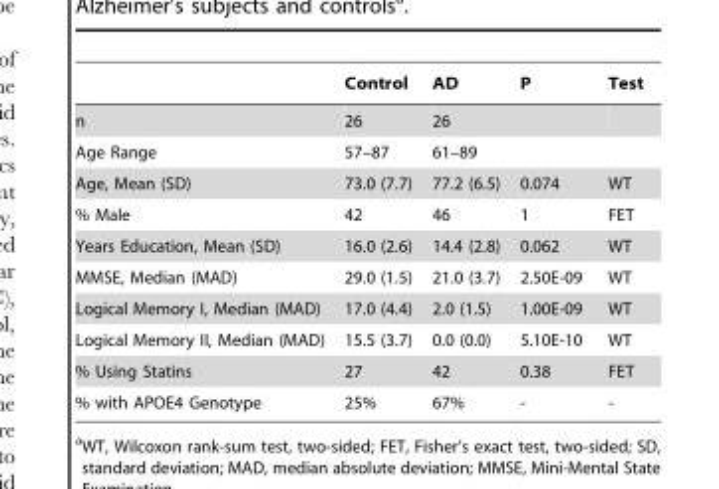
<table><thead><tr><td></td><td>Control</td><td>AD</td><td>P</td><td>Test</td></tr></thead><tbody><tr><td>n</td><td>26</td><td>26</td><td></td><td></td></tr><tr><td>Age Range</td><td>57–87</td><td>61–89</td><td></td><td></td></tr><tr><td>Age, Mean (SD)</td><td>73.0 (7.7)</td><td>77.2 (6.5)</td><td>0.074</td><td>WT</td></tr><tr><td>% Male</td><td>42</td><td>46</td><td>1</td><td>FET</td></tr><tr><td>Years Education, Mean (SD)</td><td>16.0 (2.6)</td><td>14.4 (2.8)</td><td>0.062</td><td>WT</td></tr><tr><td>MMSE, Median (MAD)</td><td>29.0 (1.5)</td><td>21.0 (3.7)</td><td>2.50E-09</td><td>WT</td></tr><tr><td>Logical Memory I, Median (MAD)</td><td>17.0 (4.4)</td><td>2.0 (1.5)</td><td>1.00E-09</td><td>WT</td></tr><tr><td>Logical Memory II, Median (MAD)</td><td>15.5 (3.7)</td><td>0.0 (0.0)</td><td>5.10E-10</td><td>WT</td></tr><tr><td>% Using Statins</td><td>27</td><td>42</td><td>0.38</td><td>FET</td></tr><tr><td>% with APOE4 Genotype</td><td>25%</td><td>67%</td><td>-</td><td>-</td></tr></tbody></table>